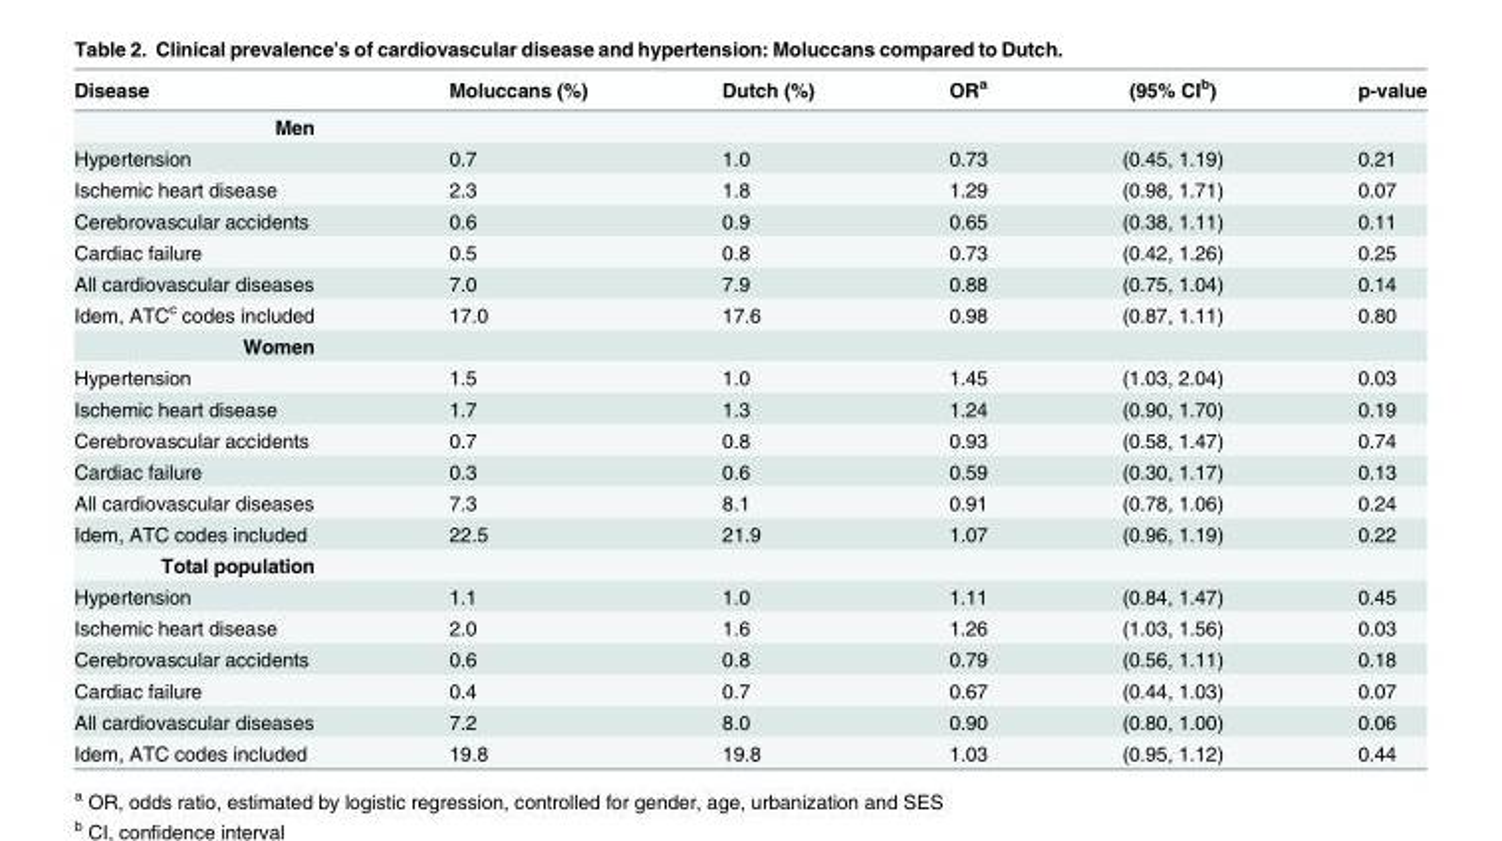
<table><thead><tr><td>Disease</td><td>Moluccans (%)</td><td>Dutch (%)</td><td>OR<sup>a</sup></td><td>(95% CI<sup>b</sup>)</td><td>p-value</td></tr></thead><tbody><tr><td colspan="6">Men</td></tr><tr><td>Hypertension</td><td>0.7</td><td>1.0</td><td>0.73</td><td>(0.45, 1.19)</td><td>0.21</td></tr><tr><td>Ischemic heart disease</td><td>2.3</td><td>1.8</td><td>1.29</td><td>(0.98, 1.71)</td><td>0.07</td></tr><tr><td>Cerebrovascular accidents</td><td>0.6</td><td>0.9</td><td>0.65</td><td>(0.38, 1.11)</td><td>0.11</td></tr><tr><td>Cardiac failure</td><td>0.5</td><td>0.8</td><td>0.73</td><td>(0.42, 1.26)</td><td>0.25</td></tr><tr><td>All cardiovascular diseases</td><td>7.0</td><td>7.9</td><td>0.88</td><td>(0.75, 1.04)</td><td>0.14</td></tr><tr><td>Idem, ATC<sup>c</sup> codes included</td><td>17.0</td><td>17.6</td><td>0.98</td><td>(0.87, 1.11)</td><td>0.80</td></tr><tr><td colspan="6">Women</td></tr><tr><td>Hypertension</td><td>1.5</td><td>1.0</td><td>1.45</td><td>(1.03, 2.04)</td><td>0.03</td></tr><tr><td>Ischemic heart disease</td><td>1.7</td><td>1.3</td><td>1.24</td><td>(0.90, 1.70)</td><td>0.19</td></tr><tr><td>Cerebrovascular accidents</td><td>0.7</td><td>0.8</td><td>0.93</td><td>(0.58, 1.47)</td><td>0.74</td></tr><tr><td>Cardiac failure</td><td>0.3</td><td>0.6</td><td>0.59</td><td>(0.30, 1.17)</td><td>0.13</td></tr><tr><td>All cardiovascular diseases</td><td>7.3</td><td>8.1</td><td>0.91</td><td>(0.78, 1.06)</td><td>0.24</td></tr><tr><td>Idem, ATC codes included</td><td>22.5</td><td>21.9</td><td>1.07</td><td>(0.96, 1.19)</td><td>0.22</td></tr><tr><td colspan="6">Total population</td></tr><tr><td>Hypertension</td><td>1.1</td><td>1.0</td><td>1.11</td><td>(0.84, 1.47)</td><td>0.45</td></tr><tr><td>Ischemic heart disease</td><td>2.0</td><td>1.6</td><td>1.26</td><td>(1.03, 1.56)</td><td>0.03</td></tr><tr><td>Cerebrovascular accidents</td><td>0.6</td><td>0.8</td><td>0.79</td><td>(0.56, 1.11)</td><td>0.18</td></tr><tr><td>Cardiac failure</td><td>0.4</td><td>0.7</td><td>0.67</td><td>(0.44, 1.03)</td><td>0.07</td></tr><tr><td>All cardiovascular diseases</td><td>7.2</td><td>8.0</td><td>0.90</td><td>(0.80, 1.00)</td><td>0.06</td></tr><tr><td>Idem, ATC codes included</td><td>19.8</td><td>19.8</td><td>1.03</td><td>(0.95, 1.12)</td><td>0.44</td></tr></tbody></table>